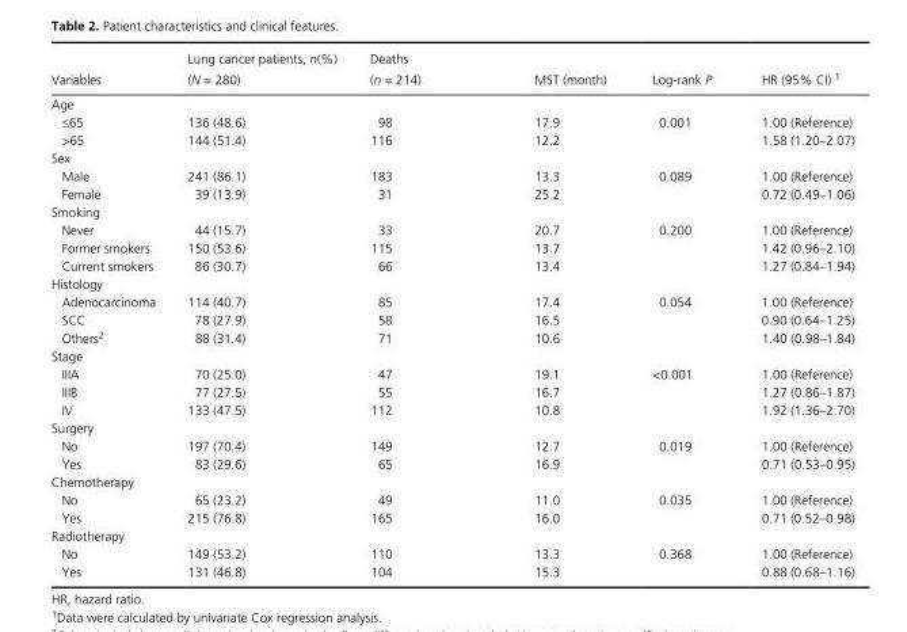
<table><thead><tr><td rowspan="2">Variables</td><td rowspan="2">Lung cancer patients, n(%) (N = 280)</td><td rowspan="2">Deaths (n = 214)</td><td rowspan="2">MST (month)</td><td rowspan="2">Log- rank P</td><td rowspan="2">HR (95% CI) 1</td></tr><tr></tr></thead><tbody><tr><td colspan="6">Age</td></tr><tr><td>≤65</td><td>136 (48.6)</td><td>98</td><td>17.9</td><td rowspan="2">0.001</td><td>1.00 (Reference)</td></tr><tr><td>&gt;65</td><td>144 (51.4)</td><td>116</td><td>12.2</td><td>1.58 (1.20–2.07)</td></tr><tr><td colspan="6">Sex</td></tr><tr><td>Male</td><td>241 (86.1)</td><td>183</td><td>13.3</td><td rowspan="2">0.089</td><td>1.00 (Reference)</td></tr><tr><td>Female</td><td>39 (13.9)</td><td>31</td><td>25.2</td><td>0.72 (0.49–1.06)</td></tr><tr><td colspan="6">Smoking</td></tr><tr><td>Never</td><td>44 (15.7)</td><td>33</td><td>20.7</td><td rowspan="3">0.200</td><td>1.00 (Reference)</td></tr><tr><td>Former smokers</td><td>150 (53.6)</td><td>115</td><td>13.7</td><td>1.42 (0.96–2.10)</td></tr><tr><td>Current smokers</td><td>86 (30.7)</td><td>66</td><td>13.4</td><td>1.27 (0.84–1.94)</td></tr><tr><td colspan="6">Histology</td></tr><tr><td>Adenocarcinoma</td><td>114 (40.7)</td><td>85</td><td>17.4</td><td rowspan="3">0.054</td><td>1.00 (Reference)</td></tr><tr><td>SCC</td><td>78 (27.9)</td><td>58</td><td>16.5</td><td>0.90 (0.64–1.25)</td></tr><tr><td>Others2</td><td>88 (31.4)</td><td>71</td><td>10.6</td><td>1.40 (0.98–1.84)</td></tr><tr><td colspan="6">Stage</td></tr><tr><td>IIIA</td><td>70 (25.0)</td><td>47</td><td>19.1</td><td rowspan="3">&lt;0.001</td><td>1.00 (Reference)</td></tr><tr><td>IIIB</td><td>77 (27.5)</td><td>55</td><td>16.7</td><td>1.27 (0.86–1.87)</td></tr><tr><td>IV</td><td>133 (47.5)</td><td>112</td><td>10.8</td><td>1.92 (1.36–2.70)</td></tr><tr><td colspan="6">Surgery</td></tr><tr><td>No</td><td>197 (70.4)</td><td>149</td><td>12.7</td><td rowspan="2">0.019</td><td>1.00 (Reference)</td></tr><tr><td>Yes</td><td>83 (29.6)</td><td>65</td><td>16.9</td><td>0.71 (0.53–0.95)</td></tr><tr><td colspan="6">Chemotherapy</td></tr><tr><td>No</td><td>65 (23.2)</td><td>49</td><td>11.0</td><td rowspan="2">0.035</td><td>1.00 (Reference)</td></tr><tr><td>Yes</td><td>215 (76.8)</td><td>165</td><td>16.0</td><td>0.71 (0.52–0.98)</td></tr><tr><td colspan="6">Radiotherapy</td></tr><tr><td>No</td><td>149 (53.2)</td><td>110</td><td>13.3</td><td rowspan="2">0.368</td><td>1.00 (Reference)</td></tr><tr><td>Yes</td><td>131 (46.8)</td><td>104</td><td>15.3</td><td>0.88 (0.68–1.16)</td></tr></tbody></table>